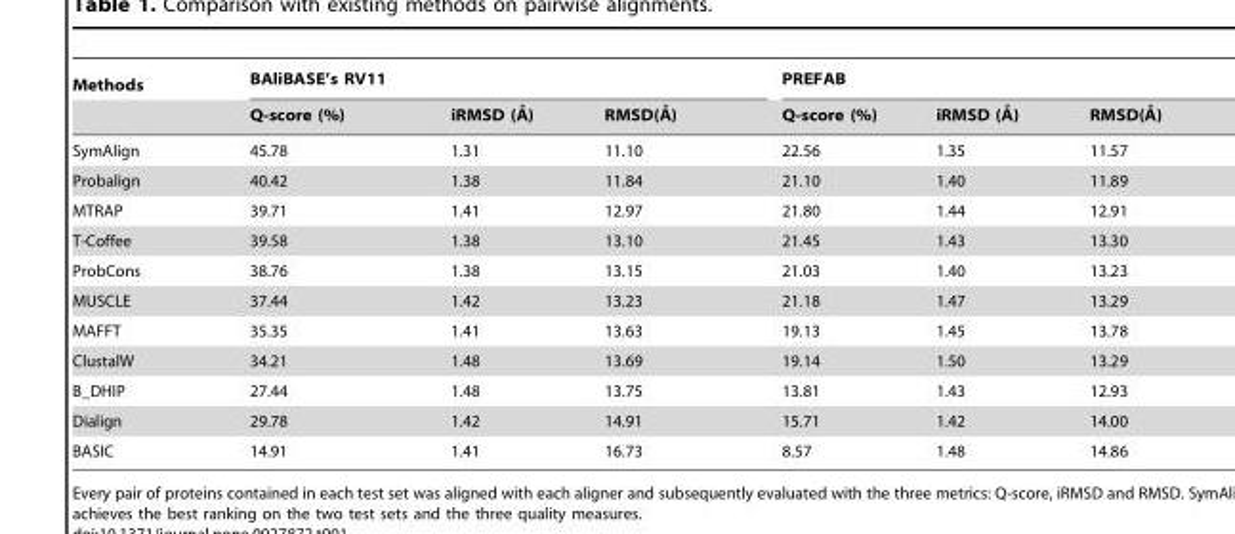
<table><thead><tr><td rowspan="2">Methods</td><td colspan="3">BAliBASE’s RV11</td><td colspan="3">PREFAB</td></tr><tr><td>Q-score (%)</td><td>iRMSD (A˚ )</td><td>RMSD(A˚ )</td><td>Q-score (%)</td><td>iRMSD (A˚ )</td><td>RMSD(A˚ )</td></tr></thead><tbody><tr><td>SymAlign</td><td>45.78</td><td>1.31</td><td>11.10</td><td>22.56</td><td>1.35</td><td>11.57</td></tr><tr><td>Probalign</td><td>40.42</td><td>1.38</td><td>11.84</td><td>21.10</td><td>1.40</td><td>11.89</td></tr><tr><td>MTRAP</td><td>39.71</td><td>1.41</td><td>12.97</td><td>21.80</td><td>1.44</td><td>12.91</td></tr><tr><td>T-Coffee</td><td>39.58</td><td>1.38</td><td>13.10</td><td>21.45</td><td>1.43</td><td>13.30</td></tr><tr><td>ProbCons</td><td>38.76</td><td>1.38</td><td>13.15</td><td>21.03</td><td>1.40</td><td>13.23</td></tr><tr><td>MUSCLE</td><td>37.44</td><td>1.42</td><td>13.23</td><td>21.18</td><td>1.47</td><td>13.29</td></tr><tr><td>MAFFT</td><td>35.35</td><td>1.41</td><td>13.63</td><td>19.13</td><td>1.45</td><td>13.78</td></tr><tr><td>ClustalW</td><td>34.21</td><td>1.48</td><td>13.69</td><td>19.14</td><td>1.50</td><td>13.29</td></tr><tr><td>B_DHIP</td><td>27.44</td><td>1.48</td><td>13.75</td><td>13.81</td><td>1.43</td><td>12.93</td></tr><tr><td>Dialign</td><td>29.78</td><td>1.42</td><td>14.91</td><td>15.71</td><td>1.42</td><td>14.00</td></tr><tr><td>BASIC</td><td>14.91</td><td>1.41</td><td>16.73</td><td>8.57</td><td>1.48</td><td>14.86</td></tr></tbody></table>